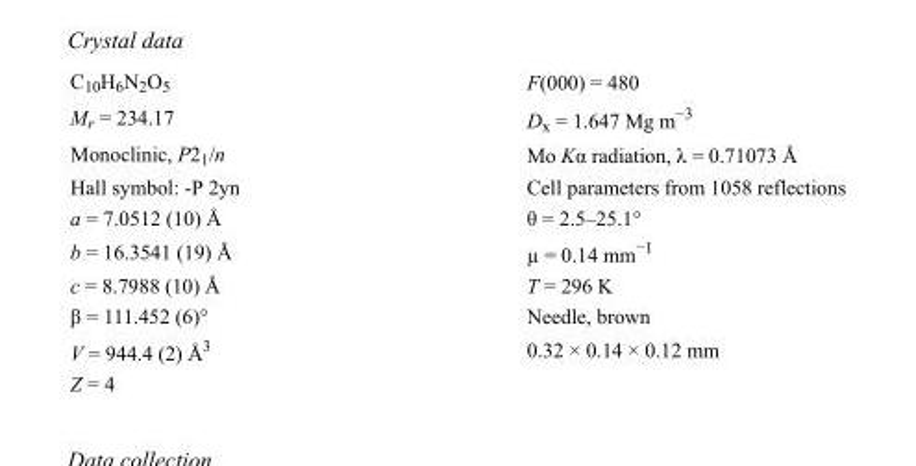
<table><tbody><tr><td>C<sub>10</sub>H<sub>6</sub>N<sub>2</sub>O<sub>5</sub></td><td>F(000) = 480</td></tr><tr><td>M<sub>r</sub> = 234.17</td><td>D<sub>x</sub> = 1.647 Mg m<sup>−3</sup></td></tr><tr><td>Monoclinic, P2<sub>1</sub>/n</td><td>Mo Kα radiation, λ = 0.71073 Å</td></tr><tr><td>Hall symbol: -P 2yn</td><td>Cell parameters from 1058 reflections</td></tr><tr><td>a = 7.0512 (10) Å</td><td>θ = 2.5–25.1°</td></tr><tr><td>b = 16.3541 (19) Å</td><td>µ = 0.14 mm<sup>−1</sup></td></tr><tr><td>c = 8.7988 (10) Å</td><td>T = 296 K</td></tr><tr><td>β = 111.452 (6)°</td><td>Needle, brown</td></tr><tr><td>V = 944.4 (2) Å<sup>3</sup></td><td>0.32 × 0.14 × 0.12 mm</td></tr><tr><td>Z = 4</td><td></td></tr></tbody></table>